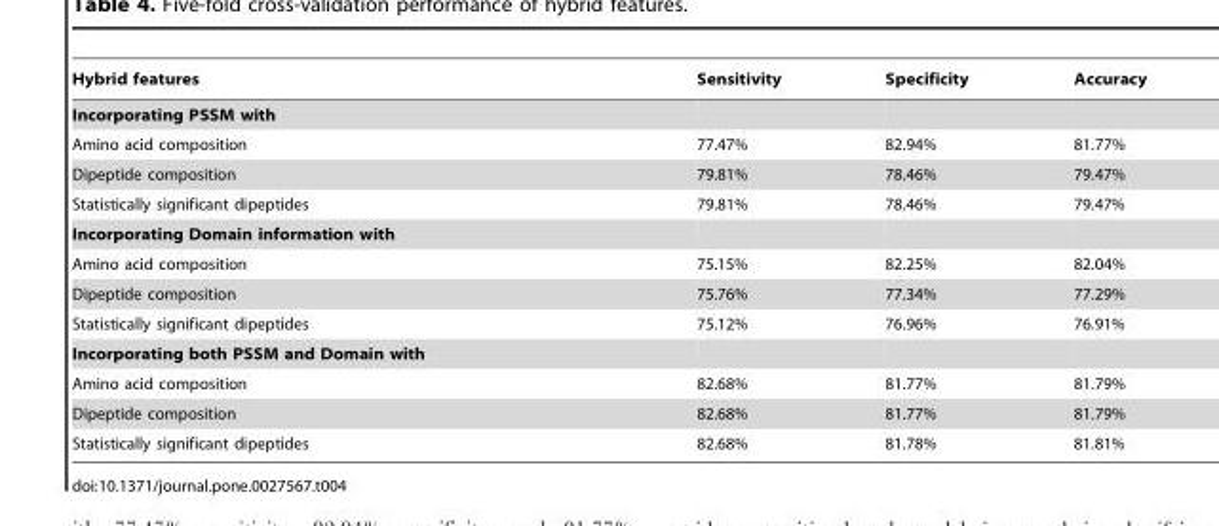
<table><thead><tr><td>Hybrid features</td><td>Sensitivity</td><td>Specificity</td><td>Accuracy</td></tr></thead><tbody><tr><td colspan="4">Incorporating PSSM with</td></tr><tr><td>Amino acid composition</td><td>77.47%</td><td>82.94%</td><td>81.77%</td></tr><tr><td>Dipeptide composition</td><td>79.81%</td><td>78.46%</td><td>79.47%</td></tr><tr><td>Statistically significant dipeptides</td><td>79.81%</td><td>78.46%</td><td>79.47%</td></tr><tr><td colspan="4">Incorporating Domain information with</td></tr><tr><td>Amino acid composition</td><td>75.15%</td><td>82.25%</td><td>82.04%</td></tr><tr><td>Dipeptide composition</td><td>75.76%</td><td>77.34%</td><td>77.29%</td></tr><tr><td>Statistically significant dipeptides</td><td>75.12%</td><td>76.96%</td><td>76.91%</td></tr><tr><td colspan="4">Incorporating both PSSM and Domain with</td></tr><tr><td>Amino acid composition</td><td>82.68%</td><td>81.77%</td><td>81.79%</td></tr><tr><td>Dipeptide composition</td><td>82.68%</td><td>81.77%</td><td>81.79%</td></tr><tr><td>Statistically significant dipeptides</td><td>82.68%</td><td>81.78%</td><td>81.81%</td></tr></tbody></table>